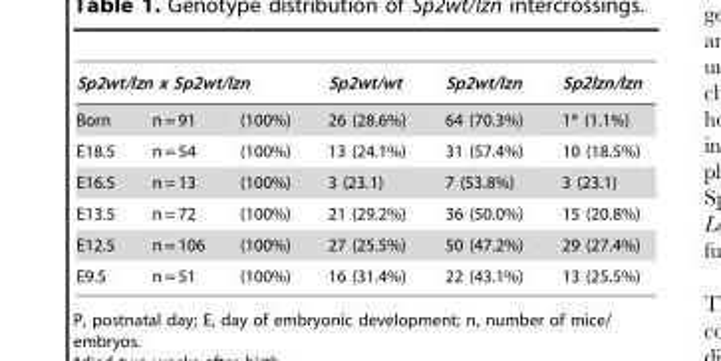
<table><thead><tr><td colspan="3">Sp2wt/lzn x Sp2wt/lzn</td><td rowspan="2">Sp2wt/wt 26 (28.6%)</td><td rowspan="2">Sp2wt/lzn 64 (70.3%)</td><td rowspan="2">Sp2lzn/lzn 1* (1.1%)</td></tr><tr><td>Born</td><td>n = 91</td><td>(100%)</td></tr></thead><tbody><tr><td>E18.5</td><td>n = 54</td><td>(100%)</td><td>13 (24.1%)</td><td>31 (57.4%)</td><td>10 (18.5%)</td></tr><tr><td>E16.5</td><td>n = 13</td><td>(100%)</td><td>3 (23.1)</td><td>7 (53.8%)</td><td>3 (23.1)</td></tr><tr><td>E13.5</td><td>n = 72</td><td>(100%)</td><td>21 (29.2%)</td><td>36 (50.0%)</td><td>15 (20.8%)</td></tr><tr><td>E12.5</td><td>n = 106</td><td>(100%)</td><td>27 (25.5%)</td><td>50 (47.2%)</td><td>29 (27.4%)</td></tr><tr><td>E9.5</td><td>n = 51</td><td>(100%)</td><td>16 (31.4%)</td><td>22 (43.1%)</td><td>13 (25.5%)</td></tr></tbody></table>